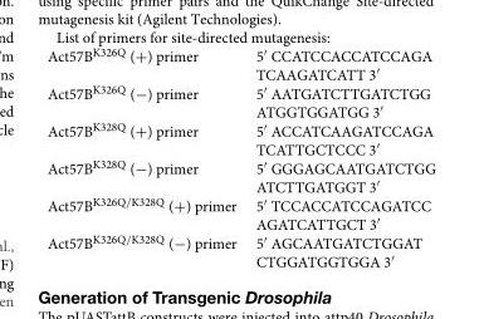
<table><tbody><tr><td>Act57B<sup>K326Q</sup> (+) primer</td><td>5′ CCATCCACCATCCAGA TCAAGATCATT 3′</td></tr><tr><td>Act57B<sup>K326Q</sup> (−) primer</td><td>5′ AATGATCTTGATCTGG ATGGTGGATGG 3′</td></tr><tr><td>Act57B<sup>K328Q</sup> (+) primer</td><td>5′ ACCATCAAGATCCAGA TCATTGCTCCC 3′</td></tr><tr><td>Act57B<sup>K328Q</sup> (−) primer</td><td>5′ GGGAGCAATGATCTGG ATCTTGATGGT 3′</td></tr><tr><td>Act57B<sup>K326Q/K328Q</sup> (+) primer</td><td>5′ TCCACCATCCAGATCC AGATCATTGCT 3′</td></tr><tr><td>Act57B<sup>K326Q/K328Q</sup> (−) primer</td><td>5′ AGCAATGATCTGGAT CTGGATGGTGGA 3′</td></tr></tbody></table>